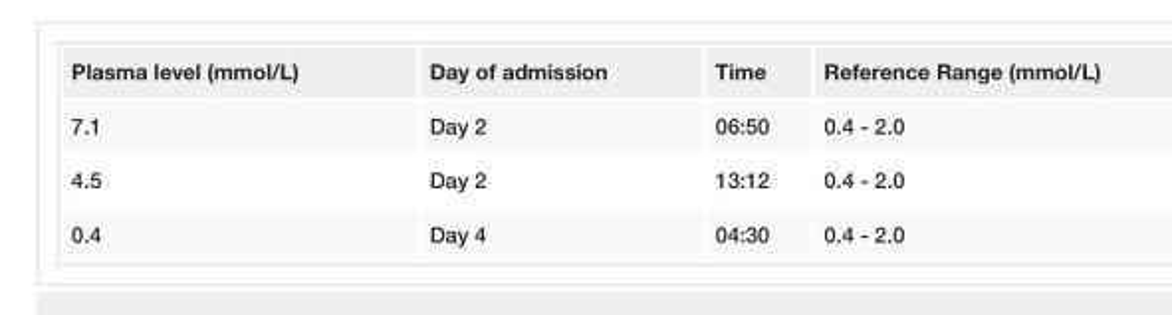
<table><tbody><tr><td>Plasma level (mmol/L)</td><td>Day of admission</td><td>Time</td><td>Reference Range (mmol/L)</td></tr><tr><td>7.1</td><td>Day 2</td><td>06:50</td><td>0.4 - 2.0</td></tr><tr><td>4.5</td><td>Day 2</td><td>13:12</td><td>0.4 - 2.0</td></tr><tr><td>0.4</td><td>Day 4</td><td>04:30</td><td>0.4 - 2.0</td></tr></tbody></table>